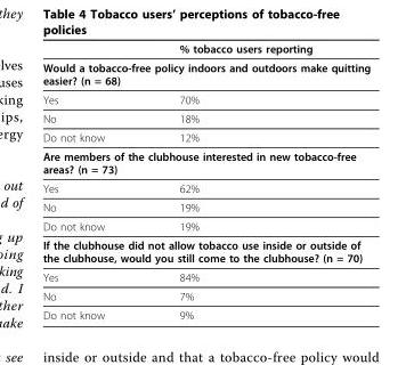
<table><thead><tr><td></td><td>% tobacco users reporting</td></tr></thead><tbody><tr><td colspan="2">Would a tobacco-free policy indoors and outdoors make quitting easier? (n = 68)</td></tr><tr><td>Yes</td><td>70%</td></tr><tr><td>No</td><td>18%</td></tr><tr><td>Do not know</td><td>12%</td></tr><tr><td colspan="2">Are members of the clubhouse interested in new tobacco-free areas? (n = 73)</td></tr><tr><td>Yes</td><td>62%</td></tr><tr><td>No</td><td>19%</td></tr><tr><td>Do not know</td><td>19%</td></tr><tr><td colspan="2">If the clubhouse did not allow tobacco use inside or outside of the clubhouse, would you still come to the clubhouse? (n = 70)</td></tr><tr><td>Yes</td><td>84%</td></tr><tr><td>No</td><td>7%</td></tr><tr><td>Do not know</td><td>9%</td></tr></tbody></table>